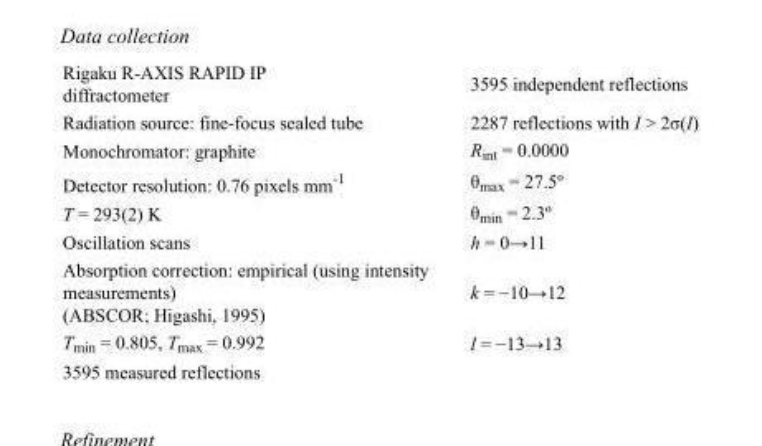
<table><tbody><tr><td>Rigaku R-AXIS RAPID IP diffractometer</td><td>3595 independent reflections</td></tr><tr><td>Radiation source: fine-focus sealed tube</td><td>2287 reflections with I &gt; 2σ(I)</td></tr><tr><td>Monochromator: graphite</td><td>R<sub>int</sub> = 0.0000</td></tr><tr><td>Detector resolution: 0.76 pixels mm<sup>-1</sup></td><td>θ<sub>max</sub> = 27.5º</td></tr><tr><td>T = 293(2) K</td><td>θ<sub>min</sub> = 2.3º</td></tr><tr><td>Oscillation scans</td><td>h = 0→11</td></tr><tr><td>Absorption correction: empirical (using intensity measurements) (ABSCOR; Higashi, 1995)</td><td>k = −10→12</td></tr><tr><td>T<sub>min</sub> = 0.805, T<sub>max</sub> = 0.992</td><td>l = −13→13</td></tr><tr><td>3595 measured reflections</td><td></td></tr></tbody></table>